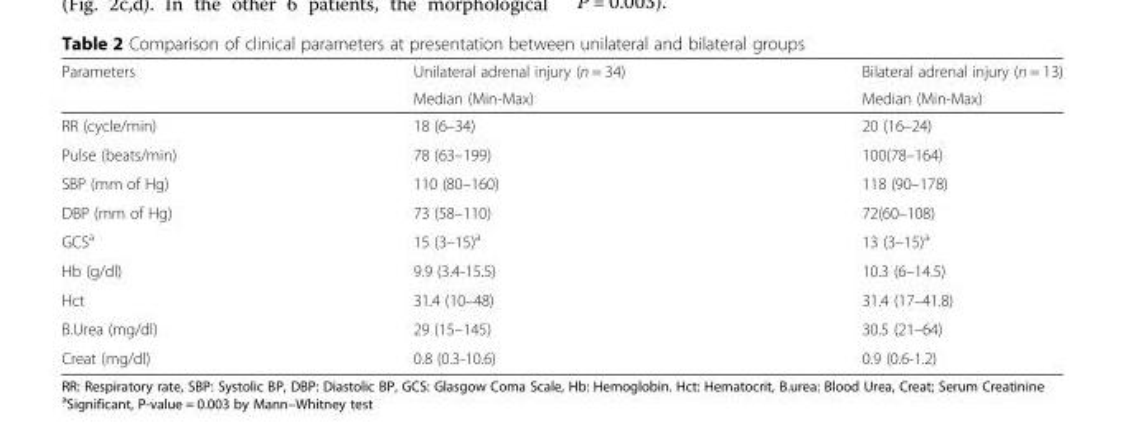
<table><thead><tr><td rowspan="2">Parameters</td><td rowspan="2">Unilateral adrenal injury (n = 34) Median (Min-Max)</td><td rowspan="2">Bilateral adrenal injury (n = 13) Median (Min-Max)</td></tr><tr></tr></thead><tbody><tr><td>RR (cycle/min)</td><td>18 (6–34)</td><td>20 (16–24)</td></tr><tr><td>Pulse (beats/min)</td><td>78 (63–199)</td><td>100(78–164)</td></tr><tr><td>SBP (mm of Hg)</td><td>110 (80–160)</td><td>118 (90–178)</td></tr><tr><td>DBP (mm of Hg)</td><td>73 (58–110)</td><td>72(60–108)</td></tr><tr><td>GCS<sup>a</sup></td><td>15 (3–15)<sup>a</sup></td><td>13 (3–15)<sup>a</sup></td></tr><tr><td>Hb (g/dl)</td><td>9.9 (3.4-15.5)</td><td>10.3 (6–14.5)</td></tr><tr><td>Hct</td><td>31.4 (10–48)</td><td>31.4 (17–41.8)</td></tr><tr><td>B.Urea (mg/dl)</td><td>29 (15–145)</td><td>30.5 (21–64)</td></tr><tr><td>Creat (mg/dl)</td><td>0.8 (0.3-10.6)</td><td>0.9 (0.6-1.2)</td></tr></tbody></table>